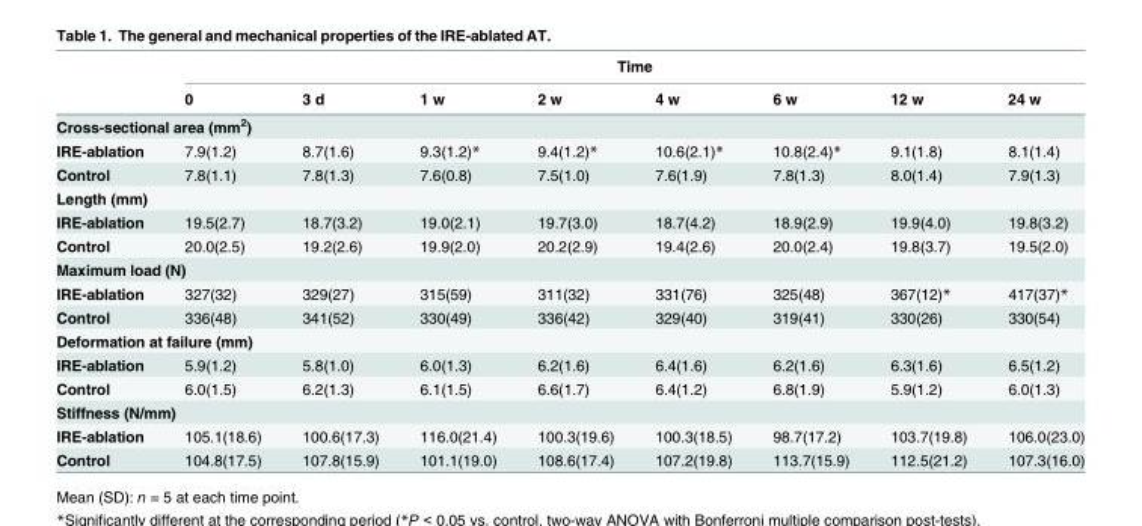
<table><thead><tr><td rowspan="2"></td><td colspan="8">Time</td></tr><tr><td>0</td><td>3 d</td><td>1 w</td><td>2 w</td><td>4 w</td><td>6 w</td><td>12 w</td><td>24 w</td></tr></thead><tbody><tr><td colspan="9">Cross-sectional area (mm<sup>2</sup>)</td></tr><tr><td>IRE-ablation</td><td>7.9(1.2)</td><td>8.7(1.6)</td><td>9.3(1.2)*</td><td>9.4(1.2)*</td><td>10.6(2.1)*</td><td>10.8(2.4)*</td><td>9.1(1.8)</td><td>8.1(1.4)</td></tr><tr><td>Control</td><td>7.8(1.1)</td><td>7.8(1.3)</td><td>7.6(0.8)</td><td>7.5(1.0)</td><td>7.6(1.9)</td><td>7.8(1.3)</td><td>8.0(1.4)</td><td>7.9(1.3)</td></tr><tr><td colspan="9">Length (mm)</td></tr><tr><td>IRE-ablation</td><td>19.5(2.7)</td><td>18.7(3.2)</td><td>19.0(2.1)</td><td>19.7(3.0)</td><td>18.7(4.2)</td><td>18.9(2.9)</td><td>19.9(4.0)</td><td>19.8(3.2)</td></tr><tr><td>Control</td><td>20.0(2.5)</td><td>19.2(2.6)</td><td>19.9(2.0)</td><td>20.2(2.9)</td><td>19.4(2.6)</td><td>20.0(2.4)</td><td>19.8(3.7)</td><td>19.5(2.0)</td></tr><tr><td colspan="9">Maximum load (N)</td></tr><tr><td>IRE-ablation</td><td>327(32)</td><td>329(27)</td><td>315(59)</td><td>311(32)</td><td>331(76)</td><td>325(48)</td><td>367(12)*</td><td>417(37)*</td></tr><tr><td>Control</td><td>336(48)</td><td>341(52)</td><td>330(49)</td><td>336(42)</td><td>329(40)</td><td>319(41)</td><td>330(26)</td><td>330(54)</td></tr><tr><td colspan="9">Deformation at failure (mm)</td></tr><tr><td>IRE-ablation</td><td>5.9(1.2)</td><td>5.8(1.0)</td><td>6.0(1.3)</td><td>6.2(1.6)</td><td>6.4(1.6)</td><td>6.2(1.6)</td><td>6.3(1.6)</td><td>6.5(1.2)</td></tr><tr><td>Control</td><td>6.0(1.5)</td><td>6.2(1.3)</td><td>6.1(1.5)</td><td>6.6(1.7)</td><td>6.4(1.2)</td><td>6.8(1.9)</td><td>5.9(1.2)</td><td>6.0(1.3)</td></tr><tr><td colspan="9">Stiffness (N/mm)</td></tr><tr><td>IRE-ablation</td><td>105.1(18.6)</td><td>100.6(17.3)</td><td>116.0(21.4)</td><td>100.3(19.6)</td><td>100.3(18.5)</td><td>98.7(17.2)</td><td>103.7(19.8)</td><td>106.0(23.0)</td></tr><tr><td>Control</td><td>104.8(17.5)</td><td>107.8(15.9)</td><td>101.1(19.0)</td><td>108.6(17.4)</td><td>107.2(19.8)</td><td>113.7(15.9)</td><td>112.5(21.2)</td><td>107.3(16.0)</td></tr></tbody></table>